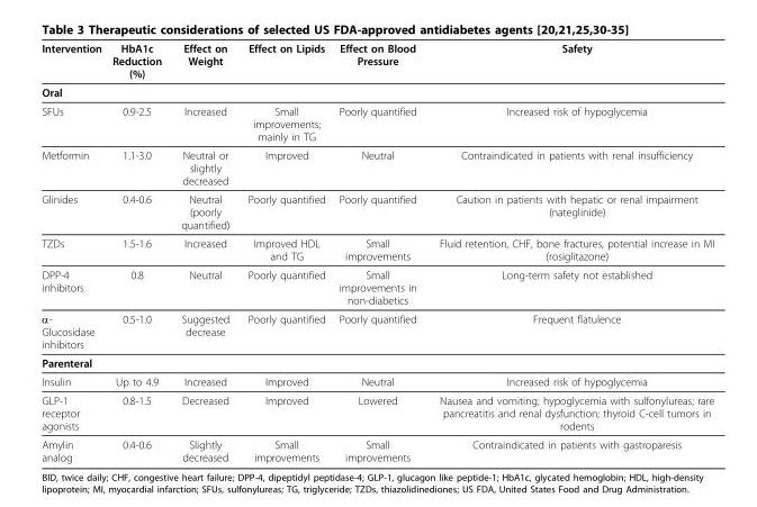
<table><thead><tr><td>Intervention</td><td>HbA1c Reduction (%)</td><td>Effect on Weight</td><td>Effect on Lipids</td><td>Effect on Blood Pressure</td><td>Safety</td></tr></thead><tbody><tr><td colspan="6">Oral</td></tr><tr><td>SFUs</td><td>0.9-2.5</td><td>Increased</td><td>Small improvements; mainly in TG</td><td>Poorly quantified</td><td>Increased risk of hypoglycemia</td></tr><tr><td>Metformin</td><td>1.1-3.0</td><td>Neutral or slightly decreased</td><td>Improved</td><td>Neutral</td><td>Contraindicated in patients with renal insufficiency</td></tr><tr><td>Glinides</td><td>0.4-0.6</td><td>Neutral (poorly quantified)</td><td>Poorly quantified</td><td>Poorly quantified</td><td>Caution in patients with hepatic or renal impairment (nateglinide)</td></tr><tr><td>TZDs</td><td>1.5-1.6</td><td>Increased</td><td>Improved HDL and TG</td><td>Small improvements</td><td>Fluid retention, CHF, bone fractures, potential increase in MI (rosiglitazone)</td></tr><tr><td>DPP-4 inhibitors</td><td>0.8</td><td>Neutral</td><td>Poorly quantified</td><td>Small improvements in non-diabetics</td><td>Long-term safety not established</td></tr><tr><td>α- Glucosidase inhibitors</td><td>0.5-1.0</td><td>Suggested decrease</td><td>Poorly quantified</td><td>Poorly quantified</td><td>Frequent flatulence</td></tr><tr><td colspan="6">Parenteral</td></tr><tr><td>Insulin</td><td>Up to 4.9</td><td>Increased</td><td>Improved</td><td>Neutral</td><td>Increased risk of hypoglycemia</td></tr><tr><td>GLP-1 receptor agonists</td><td>0.8-1.5</td><td>Decreased</td><td>Improved</td><td>Lowered</td><td>Nausea and vomiting; hypoglycemia with sulfonylureas; rare pancreatitis and renal dysfunction; thyroid C-cell tumors in rodents</td></tr><tr><td>Amylin analog</td><td>0.4-0.6</td><td>Slightly decreased</td><td>Small improvements</td><td>Small improvements</td><td>Contraindicated in patients with gastroparesis</td></tr></tbody></table>